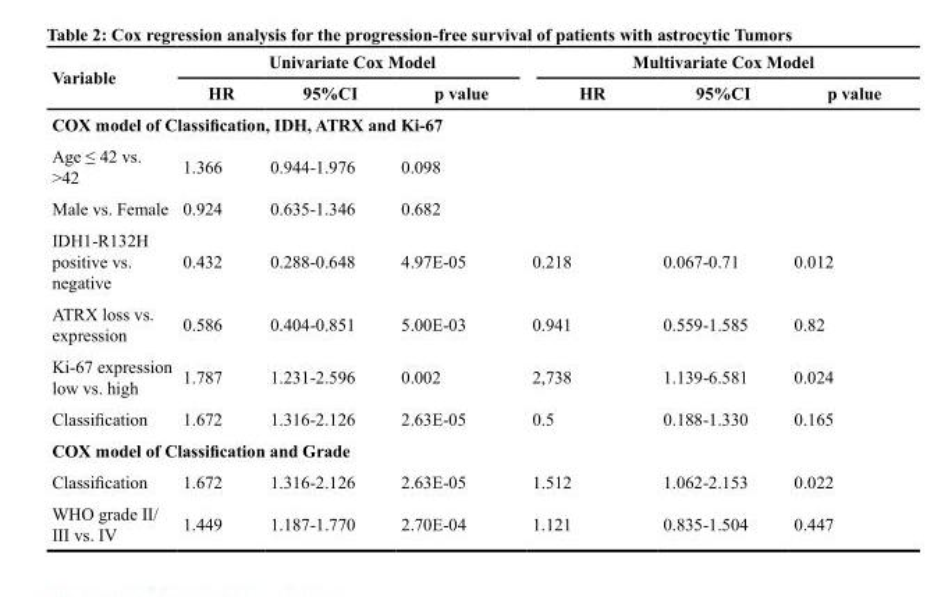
<table><thead><tr><td rowspan="2">Variable</td><td colspan="3">Univariate Cox Model</td><td colspan="3">Multivariate Cox Model</td></tr><tr><td>HR</td><td>95%CI</td><td>p value</td><td>HR</td><td>95%CI</td><td>p value</td></tr></thead><tbody><tr><td colspan="7">COX model of Classification, IDH, ATRX and Ki-67</td></tr><tr><td>Age ≤ 42 vs. &gt;42</td><td>1.366</td><td>0.944-1.976</td><td>0.098</td><td></td><td></td><td></td></tr><tr><td>Male vs. Female</td><td>0.924</td><td>0.635-1.346</td><td>0.682</td><td></td><td></td><td></td></tr><tr><td>IDH1-R132H positive vs. negative</td><td>0.432</td><td>0.288-0.648</td><td>4.97E-05</td><td>0.218</td><td>0.067-0.71</td><td>0.012</td></tr><tr><td>ATRX loss vs. expression</td><td>0.586</td><td>0.404-0.851</td><td>5.00E-03</td><td>0.941</td><td>0.559-1.585</td><td>0.82</td></tr><tr><td>Ki-67 expression low vs. high</td><td>1.787</td><td>1.231-2.596</td><td>0.002</td><td>2,738</td><td>1.139-6.581</td><td>0.024</td></tr><tr><td>Classification</td><td>1.672</td><td>1.316-2.126</td><td>2.63E-05</td><td>0.5</td><td>0.188-1.330</td><td>0.165</td></tr><tr><td colspan="7">COX model of Classification and Grade</td></tr><tr><td>Classification</td><td>1.672</td><td>1.316-2.126</td><td>2.63E-05</td><td>1.512</td><td>1.062-2.153</td><td>0.022</td></tr><tr><td>WHO grade II/ III vs. IV</td><td>1.449</td><td>1.187-1.770</td><td>2.70E-04</td><td>1.121</td><td>0.835-1.504</td><td>0.447</td></tr></tbody></table>